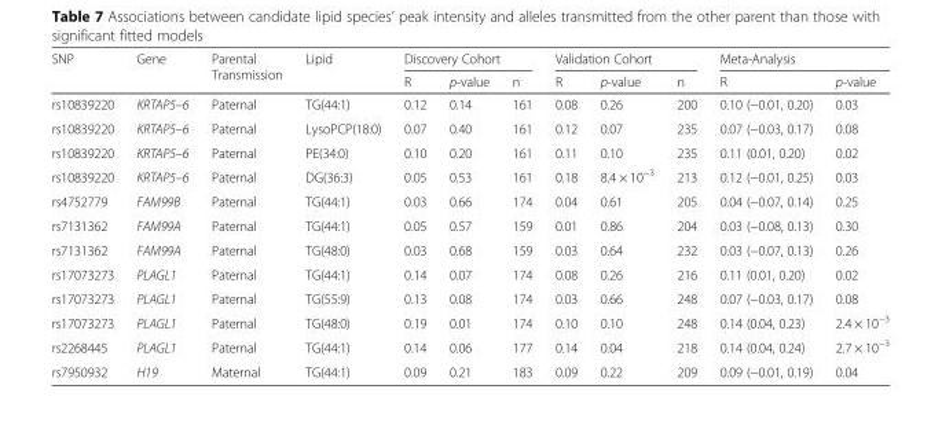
<table><thead><tr><td rowspan="2">SNP</td><td rowspan="2">Gene</td><td rowspan="2">Parental Transmission</td><td rowspan="2">Lipid</td><td colspan="3">Discovery Cohort</td><td colspan="3">Validation Cohort</td><td colspan="2">Meta-Analysis</td></tr><tr><td>R</td><td>p-value</td><td>n</td><td>R</td><td>p-value</td><td>n</td><td>R</td><td>p-value</td></tr></thead><tbody><tr><td>rs10839220</td><td>KRTAP5–6</td><td>Paternal</td><td>TG(44:1)</td><td>0.12</td><td>0.14</td><td>161</td><td>0.08</td><td>0.26</td><td>200</td><td>0.10 (−0.01, 0.20)</td><td>0.03</td></tr><tr><td>rs10839220</td><td>KRTAP5–6</td><td>Paternal</td><td>LysoPCP(18:0)</td><td>0.07</td><td>0.40</td><td>161</td><td>0.12</td><td>0.07</td><td>235</td><td>0.07 (−0.03, 0.17)</td><td>0.08</td></tr><tr><td>rs10839220</td><td>KRTAP5–6</td><td>Paternal</td><td>PE(34:0)</td><td>0.10</td><td>0.20</td><td>161</td><td>0.11</td><td>0.10</td><td>235</td><td>0.11 (0.01, 0.20)</td><td>0.02</td></tr><tr><td>rs10839220</td><td>KRTAP5–6</td><td>Paternal</td><td>DG(36:3)</td><td>0.05</td><td>0.53</td><td>161</td><td>0.18</td><td>8.4 × 10<sup>−3</sup></td><td>213</td><td>0.12 (−0.01, 0.25)</td><td>0.03</td></tr><tr><td>rs4752779</td><td>FAM99B</td><td>Paternal</td><td>TG(44:1)</td><td>0.03</td><td>0.66</td><td>174</td><td>0.04</td><td>0.61</td><td>205</td><td>0.04 (−0.07, 0.14)</td><td>0.25</td></tr><tr><td>rs7131362</td><td>FAM99A</td><td>Paternal</td><td>TG(44:1)</td><td>0.05</td><td>0.57</td><td>159</td><td>0.01</td><td>0.86</td><td>204</td><td>0.03 (−0.08, 0.13)</td><td>0.30</td></tr><tr><td>rs7131362</td><td>FAM99A</td><td>Paternal</td><td>TG(48:0)</td><td>0.03</td><td>0.68</td><td>159</td><td>0.03</td><td>0.64</td><td>232</td><td>0.03 (−0.07, 0.13)</td><td>0.26</td></tr><tr><td>rs17073273</td><td>PLAGL1</td><td>Paternal</td><td>TG(44:1)</td><td>0.14</td><td>0.07</td><td>174</td><td>0.08</td><td>0.26</td><td>216</td><td>0.11 (0.01, 0.20)</td><td>0.02</td></tr><tr><td>rs17073273</td><td>PLAGL1</td><td>Paternal</td><td>TG(55:9)</td><td>0.13</td><td>0.08</td><td>174</td><td>0.03</td><td>0.66</td><td>248</td><td>0.07 (−0.03, 0.17)</td><td>0.08</td></tr><tr><td>rs17073273</td><td>PLAGL1</td><td>Paternal</td><td>TG(48:0)</td><td>0.19</td><td>0.01</td><td>174</td><td>0.10</td><td>0.10</td><td>248</td><td>0.14 (0.04, 0.23)</td><td>2.4 × 10<sup>−3</sup></td></tr><tr><td>rs2268445</td><td>PLAGL1</td><td>Paternal</td><td>TG(44:1)</td><td>0.14</td><td>0.06</td><td>177</td><td>0.14</td><td>0.04</td><td>218</td><td>0.14 (0.04, 0.24)</td><td>2.7 × 10<sup>−3</sup></td></tr><tr><td>rs7950932</td><td>H19</td><td>Maternal</td><td>TG(44:1)</td><td>0.09</td><td>0.21</td><td>183</td><td>0.09</td><td>0.22</td><td>209</td><td>0.09 (−0.01, 0.19)</td><td>0.04</td></tr></tbody></table>